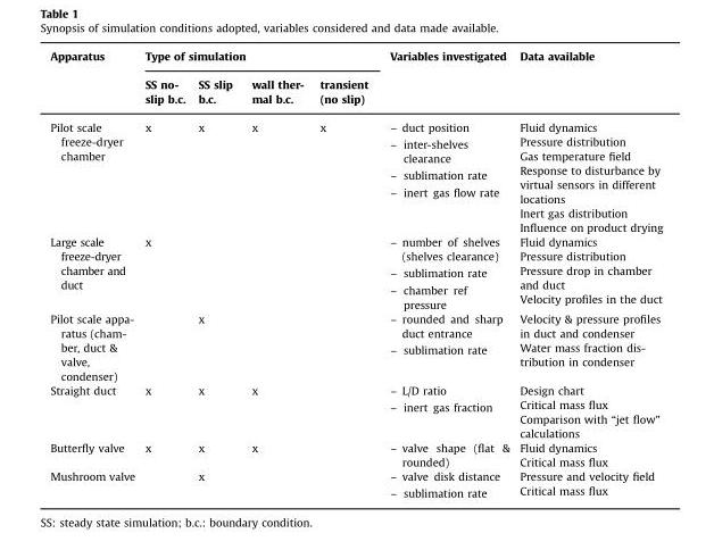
<table><thead><tr><td rowspan="2">Apparatus</td><td colspan="4">Type of simulation</td><td rowspan="2">Variables investigated</td><td rowspan="2">Data available</td></tr><tr><td>SS no- slip b.c.</td><td>SS slip b.c.</td><td>wall ther- mal b.c.</td><td>transient (no slip)</td></tr></thead><tbody><tr><td rowspan="6">Pilot scale freeze-dryer chamber</td><td rowspan="6">x</td><td rowspan="6">x</td><td rowspan="6">x</td><td rowspan="6">x</td><td rowspan="6">– duct position – inter-shelves clearance – sublimation rate – inert gas flow rate</td><td>Fluid dynamics</td></tr><tr><td>Pressure distribution</td></tr><tr><td>Gas temperature field</td></tr><tr><td>Response to disturbance by virtual sensors in different locations</td></tr><tr><td>Inert gas distribution</td></tr><tr><td>Influence on product drying</td></tr><tr><td rowspan="4">Large scale freeze-dryer chamber and duct</td><td rowspan="4">x</td><td rowspan="4"></td><td rowspan="4"></td><td rowspan="4"></td><td rowspan="4">– number of shelves (shelves clearance) – sublimation rate – chamber ref pressure</td><td>Fluid dynamics</td></tr><tr><td>Pressure distribution</td></tr><tr><td>Pressure drop in chamber and duct</td></tr><tr><td>Velocity profiles in the duct</td></tr><tr><td rowspan="2">Pilot scale appa- ratus (cham- ber, duct &amp; valve, condenser)</td><td rowspan="2"></td><td rowspan="2">x</td><td rowspan="2"></td><td rowspan="2"></td><td rowspan="2">– rounded and sharp duct entrance – sublimation rate</td><td>Velocity &amp; pressure profiles in duct and condenser</td></tr><tr><td>Water mass fraction dis- tribution in condenser</td></tr><tr><td rowspan="3">Straight duct</td><td rowspan="3">x</td><td rowspan="3">x</td><td rowspan="3">x</td><td rowspan="3"></td><td rowspan="3">– L/D ratio – inert gas fraction</td><td>Design chart</td></tr><tr><td>Critical mass flux</td></tr><tr><td>Comparison with “jet flow” calculations</td></tr><tr><td rowspan="2">Butterfly valve</td><td rowspan="2">x</td><td rowspan="2">x</td><td rowspan="2">x</td><td rowspan="2"></td><td rowspan="2">– valve shape (flat &amp; rounded)</td><td>Fluid dynamics</td></tr><tr><td>Critical mass flux</td></tr><tr><td rowspan="2">Mushroom valve</td><td rowspan="2"></td><td rowspan="2">x</td><td rowspan="2"></td><td rowspan="2"></td><td rowspan="2">– valve disk distance – sublimation rate</td><td>Pressure and velocity field</td></tr><tr><td>Critical mass flux</td></tr></tbody></table>